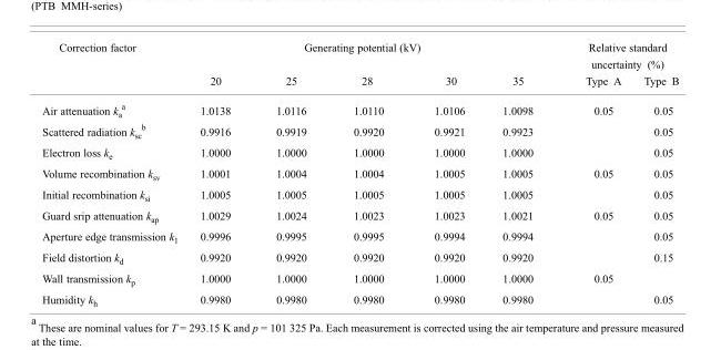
<table><thead><tr><td rowspan="2">Correction factor</td><td colspan="5">Generating potential (kV)</td><td colspan="2">Relative standard uncertainty (%)</td></tr><tr><td>20</td><td>25</td><td>28</td><td>30</td><td>35</td><td>Type A</td><td>Type B</td></tr></thead><tbody><tr><td>Air attenuation k<sub>a</sub> <sup>a</sup></td><td>1.0138</td><td>1.0116</td><td>1.0110</td><td>1.0106</td><td>1.0098</td><td>0.05</td><td>0.05</td></tr><tr><td>Scattered radiation k<sub>sc</sub> <sup>b</sup></td><td>0.9916</td><td>0.9919</td><td>0.9920</td><td>0.9921</td><td>0.9923</td><td></td><td>0.05</td></tr><tr><td>Electron loss k<sub>e</sub></td><td>1.0000</td><td>1.0000</td><td>1.0000</td><td>1.0000</td><td>1.0000</td><td></td><td>0.05</td></tr><tr><td>Volume recombination k<sub>sv</sub></td><td>1.0001</td><td>1.0004</td><td>1.0004</td><td>1.0005</td><td>1.0005</td><td>0.05</td><td>0.05</td></tr><tr><td>Initial recombination k<sub>si</sub></td><td>1.0005</td><td>1.0005</td><td>1.0005</td><td>1.0005</td><td>1.0005</td><td></td><td>0.05</td></tr><tr><td>Guard srip attenuation k<sub>ap</sub></td><td>1.0029</td><td>1.0024</td><td>1.0023</td><td>1.0023</td><td>1.0021</td><td>0.05</td><td>0.05</td></tr><tr><td>Aperture edge transmission k<sub>1</sub></td><td>0.9996</td><td>0.9995</td><td>0.9995</td><td>0.9994</td><td>0.9994</td><td></td><td>0.05</td></tr><tr><td>Field distortion k<sub>d</sub></td><td>0.9920</td><td>0.9920</td><td>0.9920</td><td>0.9920</td><td>0.9920</td><td></td><td>0.15</td></tr><tr><td>Wall transmission k<sub>p</sub></td><td>1.0000</td><td>1.0000</td><td>1.0000</td><td>1.0000</td><td>1.0000</td><td>0.05</td><td></td></tr><tr><td>Humidity k<sub>h</sub></td><td>0.9980</td><td>0.9980</td><td>0.9980</td><td>0.9980</td><td>0.9980</td><td></td><td>0.05</td></tr></tbody></table>